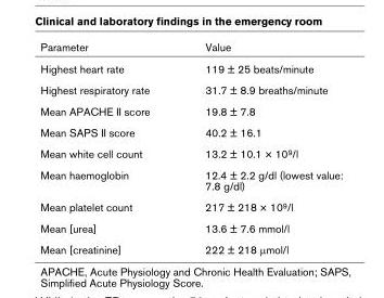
<table><thead><tr><td>Parameter</td><td>Value</td></tr></thead><tbody><tr><td>Highest heart rate</td><td>119 ± 25 beats/minute</td></tr><tr><td>Highest respiratory rate</td><td>31.7 ± 8.9 breaths/minute</td></tr><tr><td>Mean APACHE II score</td><td>19.8 ± 7.8</td></tr><tr><td>Mean SAPS II score</td><td>40.2 ± 16.1</td></tr><tr><td>Mean white cell count</td><td>13.2 ± 10.1 × 109/l</td></tr><tr><td>Mean haemoglobin</td><td>12.4 ± 2.2 g/dl (lowest value: 7.8 g/dl)</td></tr><tr><td>Mean platelet count</td><td>217 ± 218 × 109/l</td></tr><tr><td>Mean [urea]</td><td>13.6 ± 7.6 mmol/l</td></tr><tr><td>Mean [creatinine]</td><td>222 ± 218 µmol/l</td></tr></tbody></table>